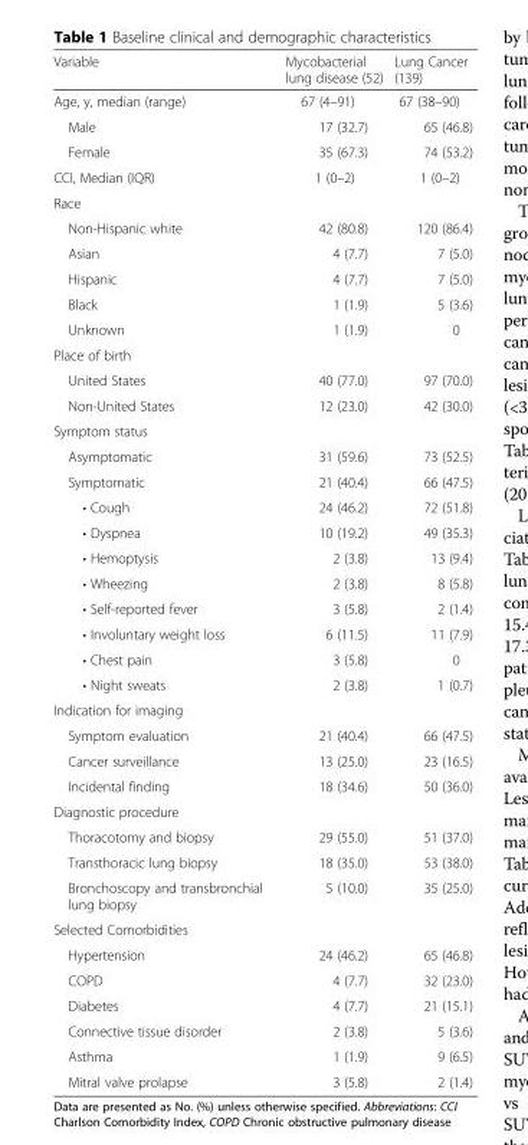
<table><thead><tr><td>Variable</td><td>Mycobacterial lung disease (52)</td><td>Lung Cancer (139)</td></tr></thead><tbody><tr><td>Age, y, median (range)</td><td>67 (4–91)</td><td>67 (38–90)</td></tr><tr><td>Male</td><td>17 (32.7)</td><td>65 (46.8)</td></tr><tr><td>Female</td><td>35 (67.3)</td><td>74 (53.2)</td></tr><tr><td>CCI, Median (IQR)</td><td>1 (0–2)</td><td>1 (0–2)</td></tr><tr><td colspan="3">Race</td></tr><tr><td>Non-Hispanic white</td><td>42 (80.8)</td><td>120 (86.4)</td></tr><tr><td>Asian</td><td>4 (7.7)</td><td>7 (5.0)</td></tr><tr><td>Hispanic</td><td>4 (7.7)</td><td>7 (5.0)</td></tr><tr><td>Black</td><td>1 (1.9)</td><td>5 (3.6)</td></tr><tr><td>Unknown</td><td>1 (1.9)</td><td>0</td></tr><tr><td colspan="3">Place of birth</td></tr><tr><td>United States</td><td>40 (77.0)</td><td>97 (70.0)</td></tr><tr><td>Non-United States</td><td>12 (23.0)</td><td>42 (30.0)</td></tr><tr><td colspan="3">Symptom status</td></tr><tr><td>Asymptomatic</td><td>31 (59.6)</td><td>73 (52.5)</td></tr><tr><td>Symptomatic</td><td>21 (40.4)</td><td>66 (47.5)</td></tr><tr><td>• Cough</td><td>24 (46.2)</td><td>72 (51.8)</td></tr><tr><td>• Dyspnea</td><td>10 (19.2)</td><td>49 (35.3)</td></tr><tr><td>• Hemoptysis</td><td>2 (3.8)</td><td>13 (9.4)</td></tr><tr><td>• Wheezing</td><td>2 (3.8)</td><td>8 (5.8)</td></tr><tr><td>• Self-reported fever</td><td>3 (5.8)</td><td>2 (1.4)</td></tr><tr><td>• Involuntary weight loss</td><td>6 (11.5)</td><td>11 (7.9)</td></tr><tr><td>• Chest pain</td><td>3 (5.8)</td><td>0</td></tr><tr><td>• Night sweats</td><td>2 (3.8)</td><td>1 (0.7)</td></tr><tr><td colspan="3">Indication for imaging</td></tr><tr><td>Symptom evaluation</td><td>21 (40.4)</td><td>66 (47.5)</td></tr><tr><td>Cancer surveillance</td><td>13 (25.0)</td><td>23 (16.5)</td></tr><tr><td>Incidental finding</td><td>18 (34.6)</td><td>50 (36.0)</td></tr><tr><td colspan="3">Diagnostic procedure</td></tr><tr><td>Thoracotomy and biopsy</td><td>29 (55.0)</td><td>51 (37.0)</td></tr><tr><td>Transthoracic lung biopsy</td><td>18 (35.0)</td><td>53 (38.0)</td></tr><tr><td>Bronchoscopy and transbronchial lung biopsy</td><td>5 (10.0)</td><td>35 (25.0)</td></tr><tr><td colspan="3">Selected Comorbidities</td></tr><tr><td>Hypertension</td><td>24 (46.2)</td><td>65 (46.8)</td></tr><tr><td>COPD</td><td>4 (7.7)</td><td>32 (23.0)</td></tr><tr><td>Diabetes</td><td>4 (7.7)</td><td>21 (15.1)</td></tr><tr><td>Connective tissue disorder</td><td>2 (3.8)</td><td>5 (3.6)</td></tr><tr><td>Asthma</td><td>1 (1.9)</td><td>9 (6.5)</td></tr><tr><td>Mitral valve prolapse</td><td>3 (5.8)</td><td>2 (1.4)</td></tr></tbody></table>